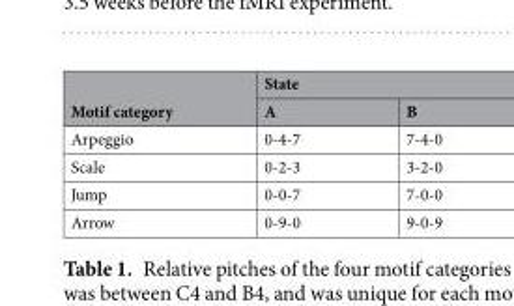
<table><thead><tr><td rowspan="2">Motif category</td><td colspan="2">State</td></tr><tr><td>A</td><td>B</td></tr></thead><tbody><tr><td>Arpeggio</td><td>0-4-7</td><td>7-4-0</td></tr><tr><td>Scale</td><td>0-2-3</td><td>3-2-0</td></tr><tr><td>Jump</td><td>0-0-7</td><td>7-0-0</td></tr><tr><td>Arrow</td><td>0-9-0</td><td>9-0-9</td></tr></tbody></table>